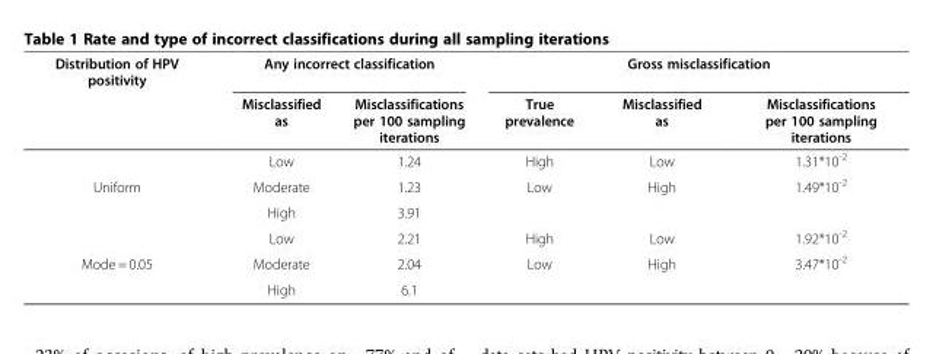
<table><thead><tr><td rowspan="2">Distribution of HPV positivity</td><td colspan="2">Any incorrect classification</td><td colspan="3">Gross misclassification</td></tr><tr><td>Misclassified as</td><td>Misclassifications per 100 sampling iterations</td><td>True prevalence</td><td>Misclassified as</td><td>Misclassifications per 100 sampling iterations</td></tr></thead><tbody><tr><td></td><td>Low</td><td>1.24</td><td>High</td><td>Low</td><td>1.31*10<sup>-2</sup></td></tr><tr><td rowspan="3">Uniform</td><td>Moderate</td><td>1.23</td><td>Low</td><td>High</td><td>1.49*10<sup>-2</sup></td></tr><tr><td>High</td><td>3.91</td><td></td><td></td><td></td></tr><tr><td>Low</td><td>2.21</td><td>High</td><td>Low</td><td>1.92*10<sup>-2</sup></td></tr><tr><td rowspan="2">Mode = 0.05</td><td>Moderate</td><td>2.04</td><td>Low</td><td>High</td><td>3.47*10<sup>-2</sup></td></tr><tr><td>High</td><td>6.1</td><td></td><td></td><td></td></tr></tbody></table>